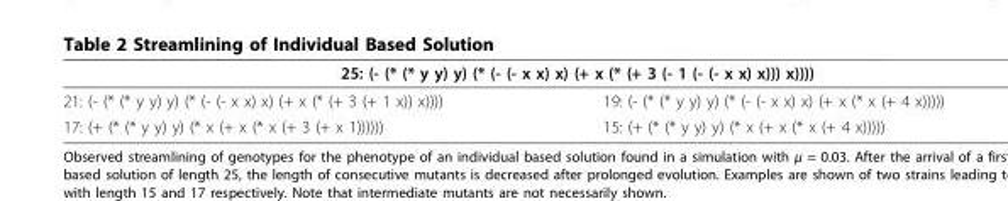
<table><thead><tr><td colspan="2">25: (- (* (* y y) y) (* (- (- x x) x) (+ x (* (+ 3 (- 1 (- (- x x) x))) x))))</td></tr><tr><td>21: (- (* (* y y) y) (* (- (- x x) x) (+ x (* (+ 3 (+ 1 x)) x))))</td><td>19: (- (* (* y y) y) (* (- (- x x) x) (+ x (* x (+ 4 x)))))</td></tr></thead><tbody><tr><td>17: (+ (* (* y y) y) (* x (+ x (* x (+ 3 (+ x 1))))))</td><td>15: (+ (* (* y y) y) (* x (+ x (* x (+ 4 x)))))</td></tr></tbody></table>